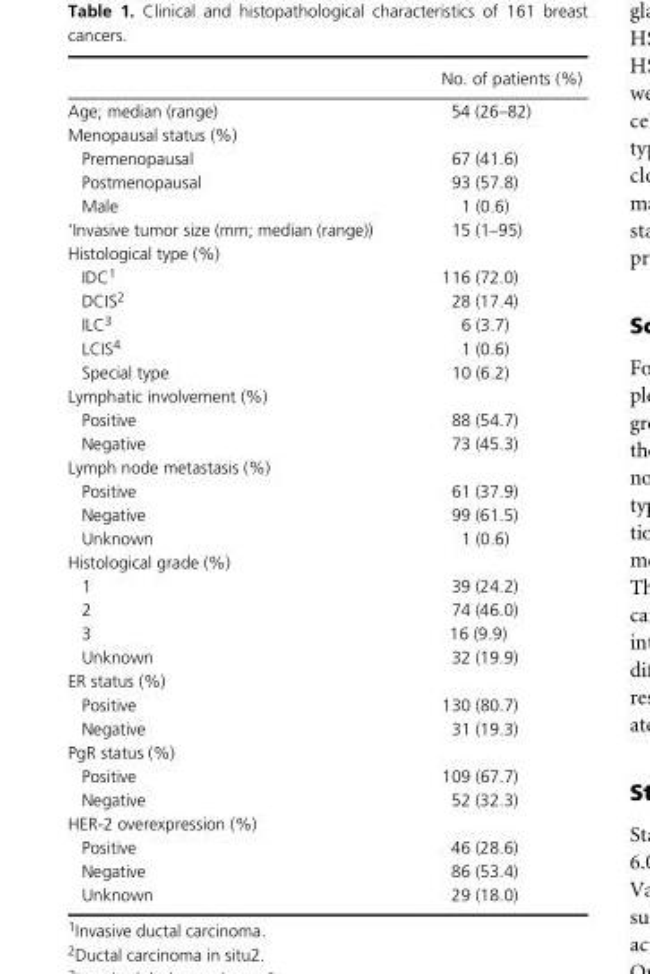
<table><thead><tr><td></td><td>No. of patients (%)</td></tr></thead><tbody><tr><td>Age; median (range)</td><td>54 (26–82)</td></tr><tr><td colspan="2">Menopausal status (%)</td></tr><tr><td>Premenopausal</td><td>67 (41.6)</td></tr><tr><td>Postmenopausal</td><td>93 (57.8)</td></tr><tr><td>Male</td><td>1 (0.6)</td></tr><tr><td>‘Invasive tumor size (mm; median (range))</td><td>15 (1–95)</td></tr><tr><td colspan="2">Histological type (%)</td></tr><tr><td>IDC1</td><td>116 (72.0)</td></tr><tr><td>DCIS2</td><td>28 (17.4)</td></tr><tr><td>ILC3</td><td>6 (3.7)</td></tr><tr><td>LCIS4</td><td>1 (0.6)</td></tr><tr><td>Special type</td><td>10 (6.2)</td></tr><tr><td colspan="2">Lymphatic involvement (%)</td></tr><tr><td>Positive</td><td>88 (54.7)</td></tr><tr><td>Negative</td><td>73 (45.3)</td></tr><tr><td colspan="2">Lymph node metastasis (%)</td></tr><tr><td>Positive</td><td>61 (37.9)</td></tr><tr><td>Negative</td><td>99 (61.5)</td></tr><tr><td>Unknown</td><td>1 (0.6)</td></tr><tr><td colspan="2">Histological grade (%)</td></tr><tr><td>1</td><td>39 (24.2)</td></tr><tr><td>2</td><td>74 (46.0)</td></tr><tr><td>3</td><td>16 (9.9)</td></tr><tr><td>Unknown</td><td>32 (19.9)</td></tr><tr><td colspan="2">ER status (%)</td></tr><tr><td>Positive</td><td>130 (80.7)</td></tr><tr><td>Negative</td><td>31 (19.3)</td></tr><tr><td colspan="2">PgR status (%)</td></tr><tr><td>Positive</td><td>109 (67.7)</td></tr><tr><td>Negative</td><td>52 (32.3)</td></tr><tr><td colspan="2">HER- 2 overexpression (%)</td></tr><tr><td>Positive</td><td>46 (28.6)</td></tr><tr><td>Negative</td><td>86 (53.4)</td></tr><tr><td>Unknown</td><td>29 (18.0)</td></tr></tbody></table>